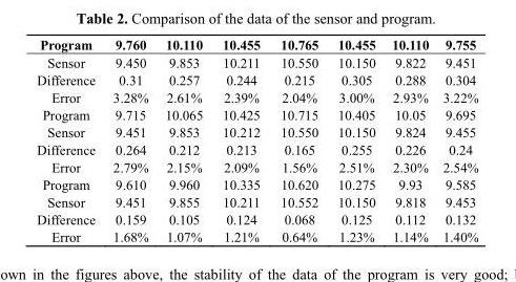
<table><thead><tr><td>Program</td><td>9.760</td><td>10.110</td><td>10.455</td><td>10.765</td><td>10.455</td><td>10.110</td><td>9.755</td></tr></thead><tbody><tr><td>Sensor</td><td>9.450</td><td>9.853</td><td>10.211</td><td>10.550</td><td>10.150</td><td>9.822</td><td>9.451</td></tr><tr><td>Difference</td><td>0.31</td><td>0.257</td><td>0.244</td><td>0.215</td><td>0.305</td><td>0.288</td><td>0.304</td></tr><tr><td>Error</td><td>3.28%</td><td>2.61%</td><td>2.39%</td><td>2.04%</td><td>3.00%</td><td>2.93%</td><td>3.22%</td></tr><tr><td>Program</td><td>9.715</td><td>10.065</td><td>10.425</td><td>10.715</td><td>10.405</td><td>10.05</td><td>9.695</td></tr><tr><td>Sensor</td><td>9.451</td><td>9.853</td><td>10.212</td><td>10.550</td><td>10.150</td><td>9.824</td><td>9.455</td></tr><tr><td>Difference</td><td>0.264</td><td>0.212</td><td>0.213</td><td>0.165</td><td>0.255</td><td>0.226</td><td>0.24</td></tr><tr><td>Error</td><td>2.79%</td><td>2.15%</td><td>2.09%</td><td>1.56%</td><td>2.51%</td><td>2.30%</td><td>2.54%</td></tr><tr><td>Program</td><td>9.610</td><td>9.960</td><td>10.335</td><td>10.620</td><td>10.275</td><td>9.93</td><td>9.585</td></tr><tr><td>Sensor</td><td>9.451</td><td>9.855</td><td>10.211</td><td>10.552</td><td>10.150</td><td>9.818</td><td>9.453</td></tr><tr><td>Difference</td><td>0.159</td><td>0.105</td><td>0.124</td><td>0.068</td><td>0.125</td><td>0.112</td><td>0.132</td></tr><tr><td>Error</td><td>1.68%</td><td>1.07%</td><td>1.21%</td><td>0.64%</td><td>1.23%</td><td>1.14%</td><td>1.40%</td></tr></tbody></table>